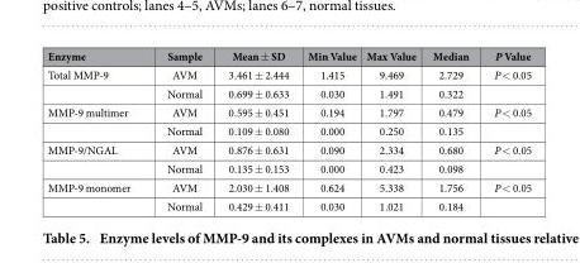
<table><thead><tr><td>Enzyme</td><td>Sample</td><td>Mean ± SD</td><td>Min Value</td><td>Max Value</td><td>Median</td><td>P Value</td></tr></thead><tbody><tr><td rowspan="2">Total MMP-9</td><td>AVM</td><td>3.461 ± 2.444</td><td>1.415</td><td>9.469</td><td>2.729</td><td>P &lt; 0.05</td></tr><tr><td>Normal</td><td>0.699 ± 0.633</td><td>0.030</td><td>1.491</td><td>0.322</td><td></td></tr><tr><td rowspan="2">MMP-9 multimer</td><td>AVM</td><td>0.595 ± 0.451</td><td>0.194</td><td>1.797</td><td>0.479</td><td>P &lt; 0.05</td></tr><tr><td>Normal</td><td>0.109 ± 0.080</td><td>0.000</td><td>0.250</td><td>0.135</td><td></td></tr><tr><td rowspan="2">MMP-9/NGAL</td><td>AVM</td><td>0.876 ± 0.631</td><td>0.090</td><td>2.334</td><td>0.680</td><td>P &lt; 0.05</td></tr><tr><td>Normal</td><td>0.135 ± 0.153</td><td>0.000</td><td>0.423</td><td>0.098</td><td></td></tr><tr><td rowspan="2">MMP-9 monomer</td><td>AVM</td><td>2.030 ± 1.408</td><td>0.624</td><td>5.338</td><td>1.756</td><td>P &lt; 0.05</td></tr><tr><td>Normal</td><td>0.429 ± 0.411</td><td>0.030</td><td>1.021</td><td>0.184</td><td></td></tr></tbody></table>